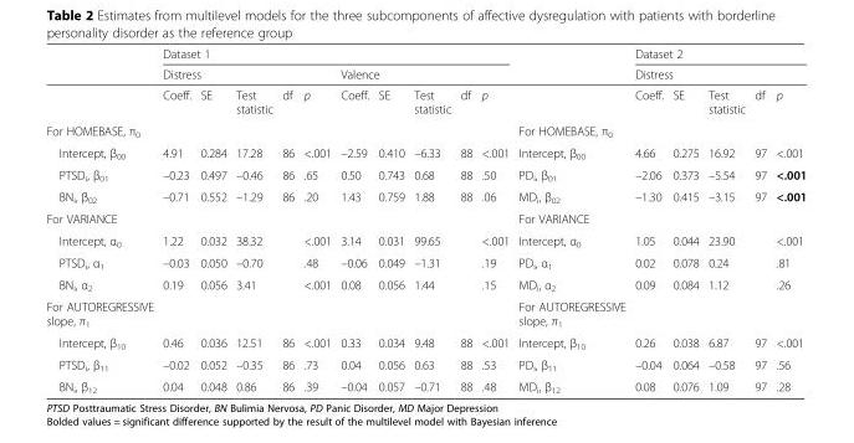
<table><thead><tr><td rowspan="3"></td><td colspan="10">Dataset 1</td><td rowspan="3"></td><td rowspan="2" colspan="5">Dataset 2 Distress</td></tr><tr><td colspan="5">Distress</td><td colspan="5">Valence</td></tr><tr><td>Coeff.</td><td>SE</td><td>Test statistic</td><td>df</td><td>p</td><td>Coeff.</td><td>SE</td><td>Test statistic</td><td>df</td><td>p</td><td>Coeff.</td><td>SE</td><td>Test statistic</td><td>df</td><td>p</td></tr></thead><tbody><tr><td>For HOMEBASE, π<sub>0</sub></td><td></td><td></td><td></td><td></td><td></td><td></td><td></td><td></td><td></td><td></td><td>For HOMEBASE, π<sub>0</sub></td><td></td><td></td><td></td><td></td><td></td></tr><tr><td>Intercept, β<sub>00</sub></td><td>4.91</td><td>0.284</td><td>17.28</td><td>86</td><td>&lt;.001</td><td>–2.59</td><td>0.410</td><td>–6.33</td><td>88</td><td>&lt;.001</td><td>Intercept, β<sub>00</sub></td><td>4.66</td><td>0.275</td><td>16.92</td><td>97</td><td>&lt;.001</td></tr><tr><td>PTSD<sub>i</sub>, β<sub>01</sub></td><td>–0.23</td><td>0.497</td><td>–0.46</td><td>86</td><td>.65</td><td>0.50</td><td>0.743</td><td>0.68</td><td>88</td><td>.50</td><td>PD<sub>i</sub>, β<sub>01</sub></td><td>–2.06</td><td>0.373</td><td>–5.54</td><td>97</td><td>&lt;.001</td></tr><tr><td>BN<sub>i</sub>, β<sub>02</sub></td><td>–0.71</td><td>0.552</td><td>–1.29</td><td>86</td><td>.20</td><td>1.43</td><td>0.759</td><td>1.88</td><td>88</td><td>.06</td><td>MD<sub>i</sub>, β<sub>02</sub></td><td>–1.30</td><td>0.415</td><td>–3.15</td><td>97</td><td>&lt;.001</td></tr><tr><td>For VARIANCE</td><td></td><td></td><td></td><td></td><td></td><td></td><td></td><td></td><td></td><td></td><td>For VARIANCE</td><td></td><td></td><td></td><td></td><td></td></tr><tr><td>Intercept, α<sub>0</sub></td><td>1.22</td><td>0.032</td><td>38.32</td><td></td><td>&lt;.001</td><td>3.14</td><td>0.031</td><td>99.65</td><td></td><td>&lt;.001</td><td>Intercept, α<sub>0</sub></td><td>1.05</td><td>0.044</td><td>23.90</td><td></td><td>&lt;.001</td></tr><tr><td>PTSD<sub>i</sub>, α<sub>1</sub></td><td>–0.03</td><td>0.050</td><td>–0.70</td><td></td><td>.48</td><td>–0.06</td><td>0.049</td><td>–1.31</td><td></td><td>.19</td><td>PD<sub>i</sub>, α<sub>1</sub></td><td>0.02</td><td>0.078</td><td>0.24</td><td></td><td>.81</td></tr><tr><td>BN<sub>i</sub>, α<sub>2</sub></td><td>0.19</td><td>0.056</td><td>3.41</td><td></td><td>&lt;.001</td><td>0.08</td><td>0.056</td><td>1.44</td><td></td><td>.15</td><td>MD<sub>i</sub>, α<sub>2</sub></td><td>0.09</td><td>0.084</td><td>1.12</td><td></td><td>.26</td></tr><tr><td>For AUTOREGRESSIVE slope, π<sub>1</sub></td><td></td><td></td><td></td><td></td><td></td><td></td><td></td><td></td><td></td><td></td><td>For AUTOREGRESSIVE slope, π<sub>1</sub></td><td></td><td></td><td></td><td></td><td></td></tr><tr><td>Intercept, β<sub>10</sub></td><td>0.46</td><td>0.036</td><td>12.51</td><td>86</td><td>&lt;.001</td><td>0.33</td><td>0.034</td><td>9.48</td><td>88</td><td>&lt;.001</td><td>Intercept, β<sub>10</sub></td><td>0.26</td><td>0.038</td><td>6.87</td><td>97</td><td>&lt;.001</td></tr><tr><td>PTSD<sub>i</sub>, β<sub>11</sub></td><td>–0.02</td><td>0.052</td><td>–0.35</td><td>86</td><td>.73</td><td>0.04</td><td>0.056</td><td>0.63</td><td>88</td><td>.53</td><td>PD<sub>i</sub>, β<sub>11</sub></td><td>–0.04</td><td>0.064</td><td>–0.58</td><td>97</td><td>.56</td></tr><tr><td>BN<sub>i</sub>, β<sub>12</sub></td><td>0.04</td><td>0.048</td><td>0.86</td><td>86</td><td>.39</td><td>–0.04</td><td>0.057</td><td>–0.71</td><td>88</td><td>.48</td><td>MD<sub>i</sub>, β<sub>12</sub></td><td>0.08</td><td>0.076</td><td>1.09</td><td>97</td><td>.28</td></tr></tbody></table>